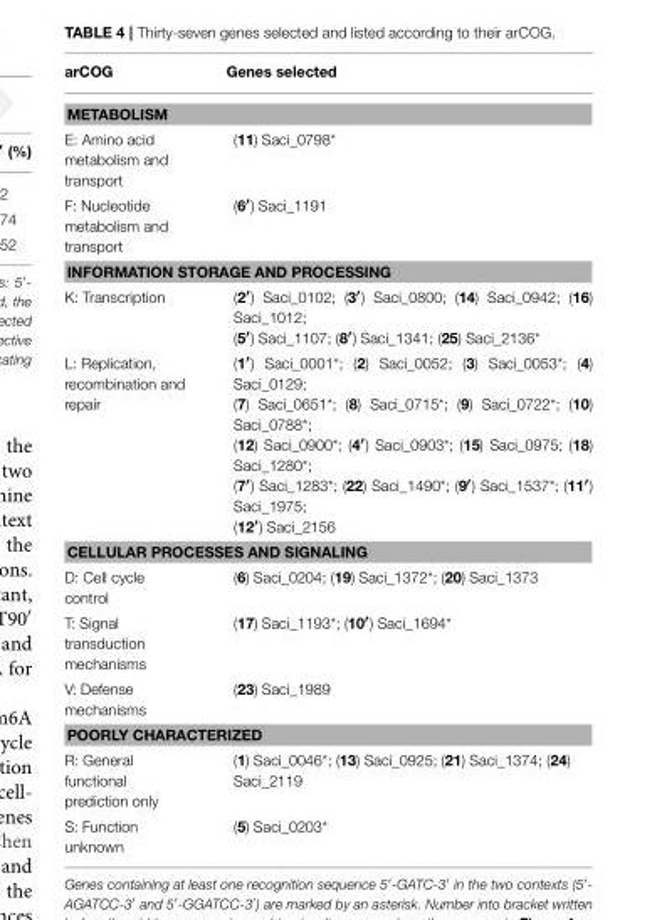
<table><thead><tr><td>arCOG</td><td>Genes selected</td></tr></thead><tbody><tr><td colspan="2">METABOLISM</td></tr><tr><td>E: Amino acid metabolism and transport</td><td>(11) Saci_0798*</td></tr><tr><td>F: Nucleotide metabolism and transport</td><td>(6′) Saci_1191</td></tr><tr><td colspan="2">INFORMATION STORAGE AND PROCESSING</td></tr><tr><td>K: Transcription</td><td>(2′) Saci_0102; (3′) Saci_0800; (14) Saci_0942; (16) Saci_1012; (5′) Saci_1107; (8′) Saci_1341; (25) Saci_2136*</td></tr><tr><td>L: Replication, recombination and repair</td><td>(1′) Saci_0001*; (2) Saci_0052; (3) Saci_0053*; (4) Saci_0129; (7) Saci_0651*; (8) Saci_0715*; (9) Saci_0722*; (10) Saci_0788*; (12) Saci_0900*; (4′) Saci_0903*; (15) Saci_0975; (18) Saci_1280*; (7′) Saci_1283*; (22) Saci_1490*; (9′) Saci_1537*; (11′) Saci_1975; (12′) Saci_2156</td></tr><tr><td colspan="2">CELLULAR PROCESSES AND SIGNALING</td></tr><tr><td>D: Cell cycle control</td><td>(6) Saci_0204; (19) Saci_1372*; (20) Saci_1373</td></tr><tr><td>T: Signal transduction mechanisms</td><td>(17) Saci_1193*; (10′) Saci_1694*</td></tr><tr><td>V: Defense mechanisms</td><td>(23) Saci_1989</td></tr><tr><td colspan="2">POORLY CHARACTERIZED</td></tr><tr><td>R: General functional prediction only</td><td>(1) Saci_0046*; (13) Saci_0925; (21) Saci_1374; (24) Saci_2119</td></tr><tr><td>S: Function unknown</td><td>(5) Saci_0203*</td></tr></tbody></table>